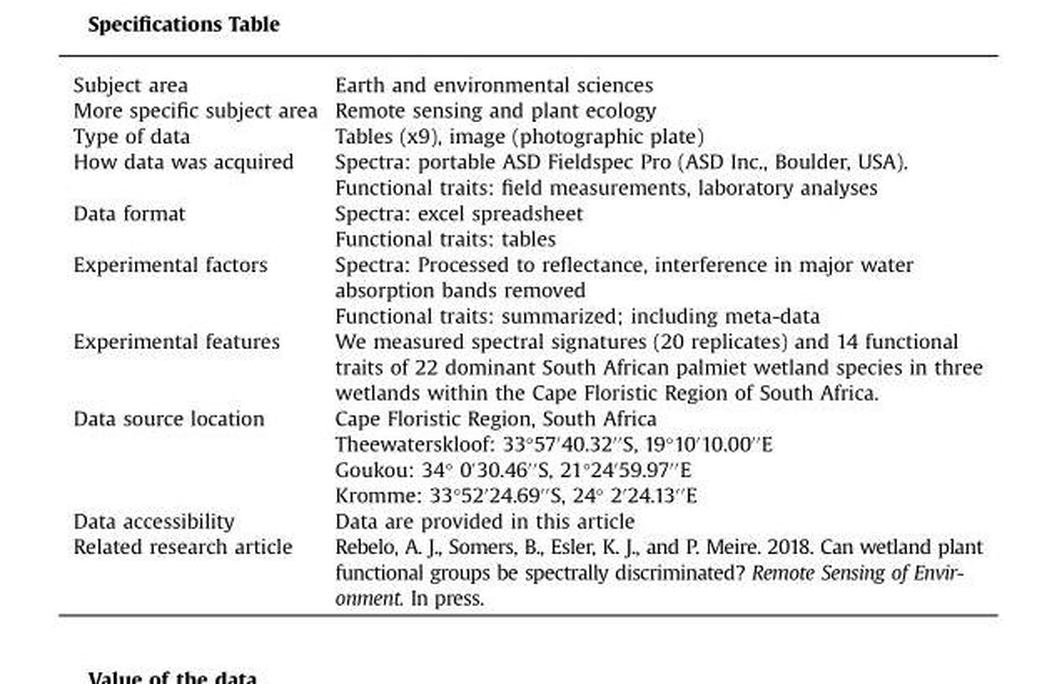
<table><tbody><tr><td>Subject area</td><td>Earth and environmental sciences</td></tr><tr><td>More specific subject area</td><td>Remote sensing and plant ecology</td></tr><tr><td>Type of data</td><td>Tables (x9), image (photographic plate)</td></tr><tr><td rowspan="2">How data was acquired</td><td>Spectra: portable ASD Fieldspec Pro (ASD Inc., Boulder, USA).</td></tr><tr><td>Functional traits: field measurements, laboratory analyses</td></tr><tr><td rowspan="2">Data format</td><td>Spectra: excel spreadsheet</td></tr><tr><td>Functional traits: tables</td></tr><tr><td rowspan="2">Experimental factors</td><td>Spectra: Processed to reflectance, interference in major water absorption bands removed</td></tr><tr><td>Functional traits: summarized; including meta-data</td></tr><tr><td>Experimental features</td><td>We measured spectral signatures (20 replicates) and 14 functional traits of 22 dominant South African palmiet wetland species in three wetlands within the Cape Floristic Region of South Africa.</td></tr><tr><td rowspan="4">Data source location</td><td>Cape Floristic Region, South Africa</td></tr><tr><td>Theewaterskloof: 33°57′40.32′′S, 19°10′10.00′′E</td></tr><tr><td>Goukou: 34° 0′30.46′′S, 21°24′59.97′′E</td></tr><tr><td>Kromme: 33°52′24.69′′S, 24° 2′24.13′′E</td></tr><tr><td>Data accessibility</td><td>Data are provided in this article</td></tr><tr><td>Related research article</td><td>Rebelo, A. J., Somers, B., Esler, K. J., and P. Meire. 2018. Can wetland plant functional groups be spectrally discriminated? Remote Sensing of Envir- onment. In press.</td></tr></tbody></table>